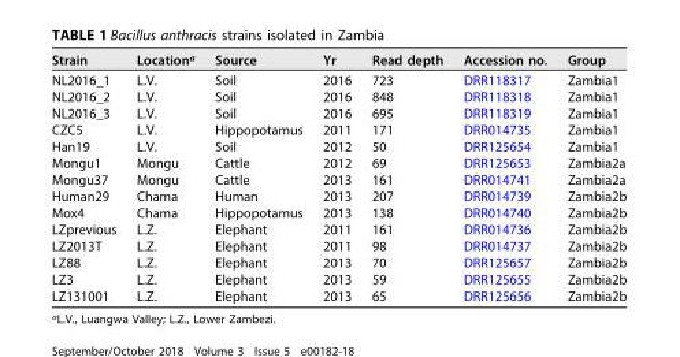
<table><thead><tr><td>Strain</td><td>Location<sup>a</sup></td><td>Source</td><td>Yr</td><td>Read depth</td><td>Accession no.</td><td>Group</td></tr></thead><tbody><tr><td>NL2016_1</td><td>L.V.</td><td>Soil</td><td>2016</td><td>723</td><td>DRR118317</td><td>Zambia1</td></tr><tr><td>NL2016_2</td><td>L.V.</td><td>Soil</td><td>2016</td><td>848</td><td>DRR118318</td><td>Zambia1</td></tr><tr><td>NL2016_3</td><td>L.V.</td><td>Soil</td><td>2016</td><td>695</td><td>DRR118319</td><td>Zambia1</td></tr><tr><td>CZC5</td><td>L.V.</td><td>Hippopotamus</td><td>2011</td><td>171</td><td>DRR014735</td><td>Zambia1</td></tr><tr><td>Han19</td><td>L.V.</td><td>Soil</td><td>2012</td><td>50</td><td>DRR125654</td><td>Zambia1</td></tr><tr><td>Mongu1</td><td>Mongu</td><td>Cattle</td><td>2012</td><td>69</td><td>DRR125653</td><td>Zambia2a</td></tr><tr><td>Mongu37</td><td>Mongu</td><td>Cattle</td><td>2013</td><td>161</td><td>DRR014741</td><td>Zambia2a</td></tr><tr><td>Human29</td><td>Chama</td><td>Human</td><td>2013</td><td>207</td><td>DRR014739</td><td>Zambia2b</td></tr><tr><td>Mox4</td><td>Chama</td><td>Hippopotamus</td><td>2013</td><td>138</td><td>DRR014740</td><td>Zambia2b</td></tr><tr><td>LZprevious</td><td>L.Z.</td><td>Elephant</td><td>2011</td><td>161</td><td>DRR014736</td><td>Zambia2b</td></tr><tr><td>LZ2013T</td><td>L.Z.</td><td>Elephant</td><td>2011</td><td>98</td><td>DRR014737</td><td>Zambia2b</td></tr><tr><td>LZ88</td><td>L.Z.</td><td>Elephant</td><td>2013</td><td>70</td><td>DRR125657</td><td>Zambia2b</td></tr><tr><td>LZ3</td><td>L.Z.</td><td>Elephant</td><td>2013</td><td>59</td><td>DRR125655</td><td>Zambia2b</td></tr><tr><td>LZ131001</td><td>L.Z.</td><td>Elephant</td><td>2013</td><td>65</td><td>DRR125656</td><td>Zambia2b</td></tr></tbody></table>